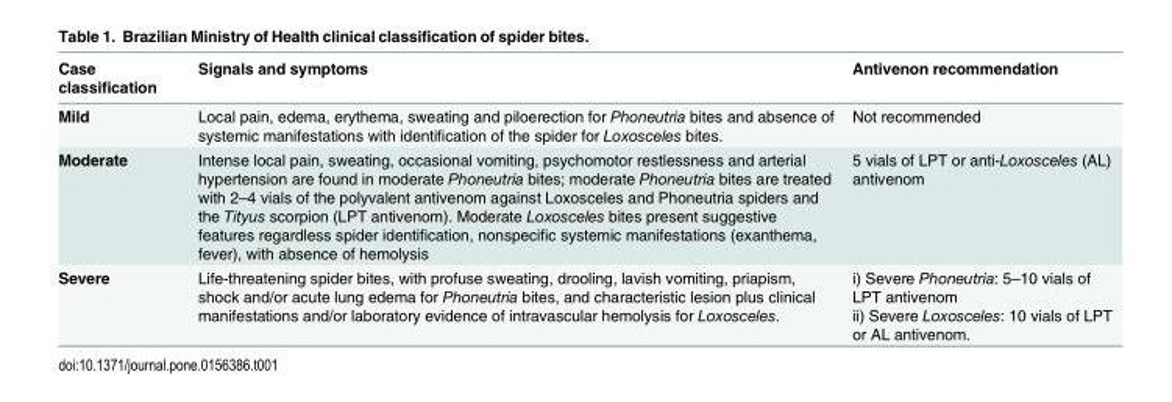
<table><thead><tr><td>Case classification</td><td>Signals and symptoms</td><td>Antivenon recommendation</td></tr></thead><tbody><tr><td>Mild</td><td>Local pain, edema, erythema, sweating and piloerection for Phoneutria bites and absence of systemic manifestations with identification of the spider for Loxosceles bites.</td><td>Not recommended</td></tr><tr><td>Moderate</td><td>Intense local pain, sweating, occasional vomiting, psychomotor restlessness and arterial hypertension are found in moderate Phoneutria bites; moderate Phoneutria bites are treated with 2–4 vials of the polyvalent antivenom against Loxosceles and Phoneutria spiders and the Tityus scorpion (LPT antivenom). Moderate Loxosceles bites present suggestive features regardless spider identification, nonspecific systemic manifestations (exanthema, fever), with absence of hemolysis</td><td>5 vials of LPT or anti-Loxosceles (AL) antivenom</td></tr><tr><td>Severe</td><td>Life-threatening spider bites, with profuse sweating, drooling, lavish vomiting, priapism, shock and/or acute lung edema for Phoneutria bites, and characteristic lesion plus clinical manifestations and/or laboratory evidence of intravascular hemolysis for Loxosceles.</td><td>i) Severe Phoneutria: 5–10 vials of LPT antivenom ii) Severe Loxosceles: 10 vials of LPT or AL antivenom.</td></tr></tbody></table>